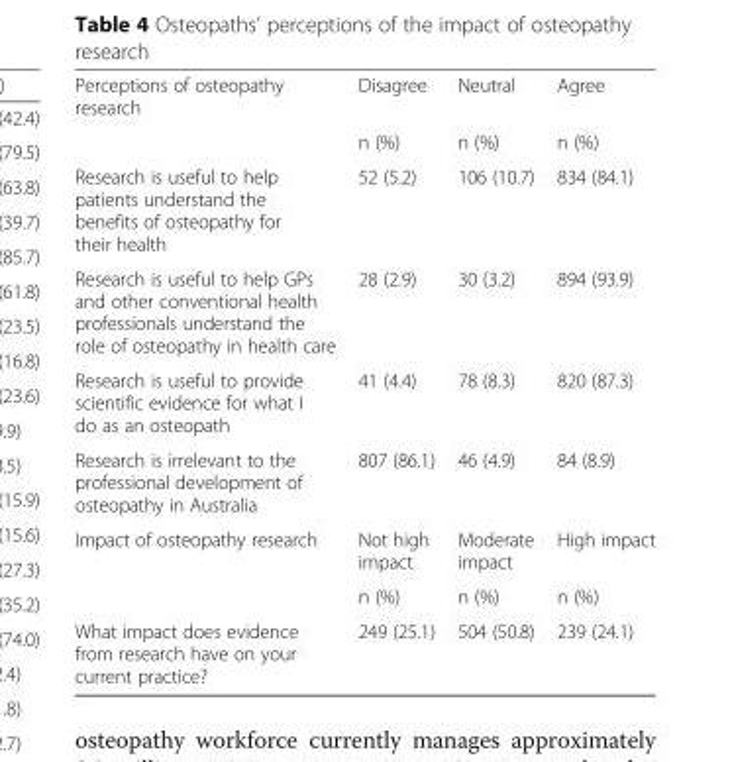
<table><tbody><tr><td rowspan="2">Perceptions of osteopathy research</td><td>Disagree</td><td>Neutral</td><td>Agree</td></tr><tr><td>n (%)</td><td>n (%)</td><td>n (%)</td></tr><tr><td>Research is useful to help patients understand the benefits of osteopathy for their health</td><td>52 (5.2)</td><td>106 (10.7)</td><td>834 (84.1)</td></tr><tr><td>Research is useful to help GPs and other conventional health professionals understand the role of osteopathy in health care</td><td>28 (2.9)</td><td>30 (3.2)</td><td>894 (93.9)</td></tr><tr><td>Research is useful to provide scientific evidence for what I do as an osteopath</td><td>41 (4.4)</td><td>78 (8.3)</td><td>820 (87.3)</td></tr><tr><td>Research is irrelevant to the professional development of osteopathy in Australia</td><td>807 (86.1)</td><td>46 (4.9)</td><td>84 (8.9)</td></tr><tr><td rowspan="2">Impact of osteopathy research</td><td>Not high impact</td><td>Moderate impact</td><td>High impact</td></tr><tr><td>n (%)</td><td>n (%)</td><td>n (%)</td></tr><tr><td>What impact does evidence from research have on your current practice?</td><td>249 (25.1)</td><td>504 (50.8)</td><td>239 (24.1)</td></tr></tbody></table>